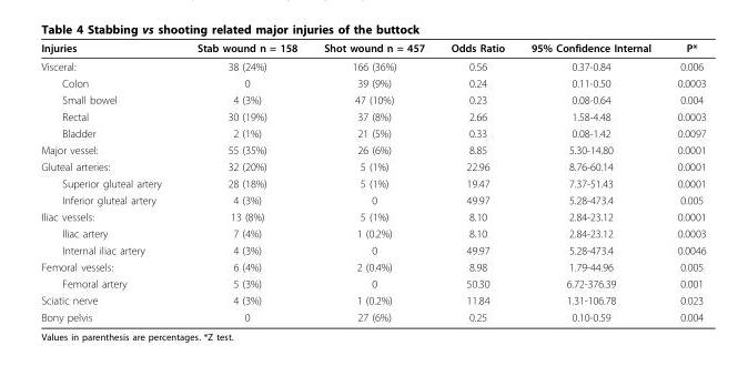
<table><thead><tr><td>Injuries</td><td>Stab wound n = 158</td><td>Shot wound n = 457</td><td>Odds Ratio</td><td>95% Confidence Internal</td><td>P*</td></tr></thead><tbody><tr><td>Visceral:</td><td>38 (24%)</td><td>166 (36%)</td><td>0.56</td><td>0.37-0.84</td><td>0.006</td></tr><tr><td>Colon</td><td>0</td><td>39 (9%)</td><td>0.24</td><td>0.11-0.50</td><td>0.0003</td></tr><tr><td>Small bowel</td><td>4 (3%)</td><td>47 (10%)</td><td>0.23</td><td>0.08-0.64</td><td>0.004</td></tr><tr><td>Rectal</td><td>30 (19%)</td><td>37 (8%)</td><td>2.66</td><td>1.58-4.48</td><td>0.0003</td></tr><tr><td>Bladder</td><td>2 (1%)</td><td>21 (5%)</td><td>0.33</td><td>0.08-1.42</td><td>0.0097</td></tr><tr><td>Major vessel:</td><td>55 (35%)</td><td>26 (6%)</td><td>8.85</td><td>5.30-14.80</td><td>0.0001</td></tr><tr><td>Gluteal arteries:</td><td>32 (20%)</td><td>5 (1%)</td><td>22.96</td><td>8.76-60.14</td><td>0.0001</td></tr><tr><td>Superior gluteal artery</td><td>28 (18%)</td><td>5 (1%)</td><td>19.47</td><td>7.37-51.43</td><td>0.0001</td></tr><tr><td>Inferior gluteal artery</td><td>4 (3%)</td><td>0</td><td>49.97</td><td>5.28-473.4</td><td>0.005</td></tr><tr><td>Iliac vessels:</td><td>13 (8%)</td><td>5 (1%)</td><td>8.10</td><td>2.84-23.12</td><td>0.0001</td></tr><tr><td>Iliac artery</td><td>7 (4%)</td><td>1 (0.2%)</td><td>8.10</td><td>2.84-23.12</td><td>0.0003</td></tr><tr><td>Internal iliac artery</td><td>4 (3%)</td><td>0</td><td>49.97</td><td>5.28-473.4</td><td>0.0046</td></tr><tr><td>Femoral vessels:</td><td>6 (4%)</td><td>2 (0.4%)</td><td>8.98</td><td>1.79-44.96</td><td>0.005</td></tr><tr><td>Femoral artery</td><td>5 (3%)</td><td>0</td><td>50.30</td><td>6.72-376.39</td><td>0.001</td></tr><tr><td>Sciatic nerve</td><td>4 (3%)</td><td>1 (0.2%)</td><td>11.84</td><td>1.31-106.78</td><td>0.023</td></tr><tr><td>Bony pelvis</td><td>0</td><td>27 (6%)</td><td>0.25</td><td>0.10-0.59</td><td>0.004</td></tr></tbody></table>